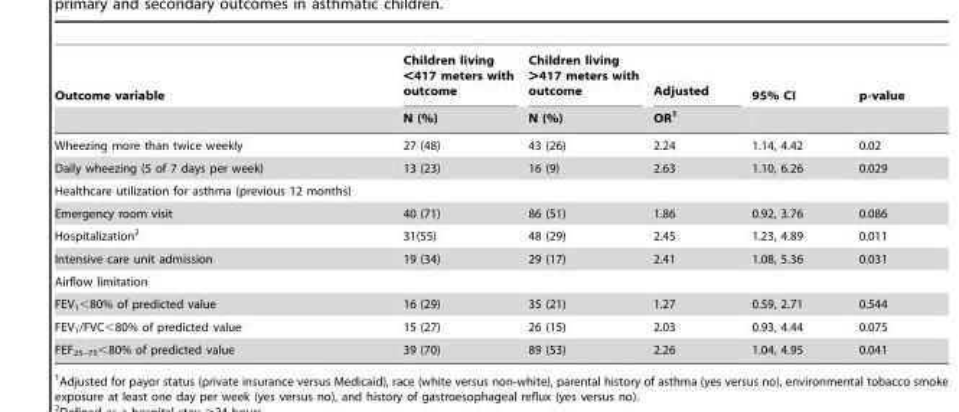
<table><thead><tr><td rowspan="2">Outcome variable</td><td rowspan="2">Children living &lt;417 meters with outcome N (%)</td><td rowspan="2">Children living &gt;417 meters with outcome N (%)</td><td rowspan="2">Adjusted OR<sup>1</sup></td><td rowspan="2">95% CI</td><td rowspan="2">p-value</td></tr><tr></tr></thead><tbody><tr><td>Wheezing more than twice weekly</td><td>27 (48)</td><td>43 (26)</td><td>2.24</td><td>1.14, 4.42</td><td>0.02</td></tr><tr><td>Daily wheezing (5 of 7 days per week)</td><td>13 (23)</td><td>16 (9)</td><td>2.63</td><td>1.10, 6.26</td><td>0.029</td></tr><tr><td colspan="6">Healthcare utilization for asthma (previous 12 months)</td></tr><tr><td>Emergency room visit</td><td>40 (71)</td><td>86 (51)</td><td>1.86</td><td>0.92, 3.76</td><td>0.086</td></tr><tr><td>Hospitalization<sup>2</sup></td><td>31(55)</td><td>48 (29)</td><td>2.45</td><td>1.23, 4.89</td><td>0.011</td></tr><tr><td>Intensive care unit admission</td><td>19 (34)</td><td>29 (17)</td><td>2.41</td><td>1.08, 5.36</td><td>0.031</td></tr><tr><td colspan="6">Airflow limitation</td></tr><tr><td>FEV<sub>1</sub>&lt;80% of predicted value</td><td>16 (29)</td><td>35 (21)</td><td>1.27</td><td>0.59, 2.71</td><td>0.544</td></tr><tr><td>FEV<sub>1</sub>/FVC&lt;80% of predicted value</td><td>15 (27)</td><td>26 (15)</td><td>2.03</td><td>0.93, 4.44</td><td>0.075</td></tr><tr><td>FEF<sub>25–75</sub>&lt;80% of predicted value</td><td>39 (70)</td><td>89 (53)</td><td>2.26</td><td>1.04, 4.95</td><td>0.041</td></tr></tbody></table>